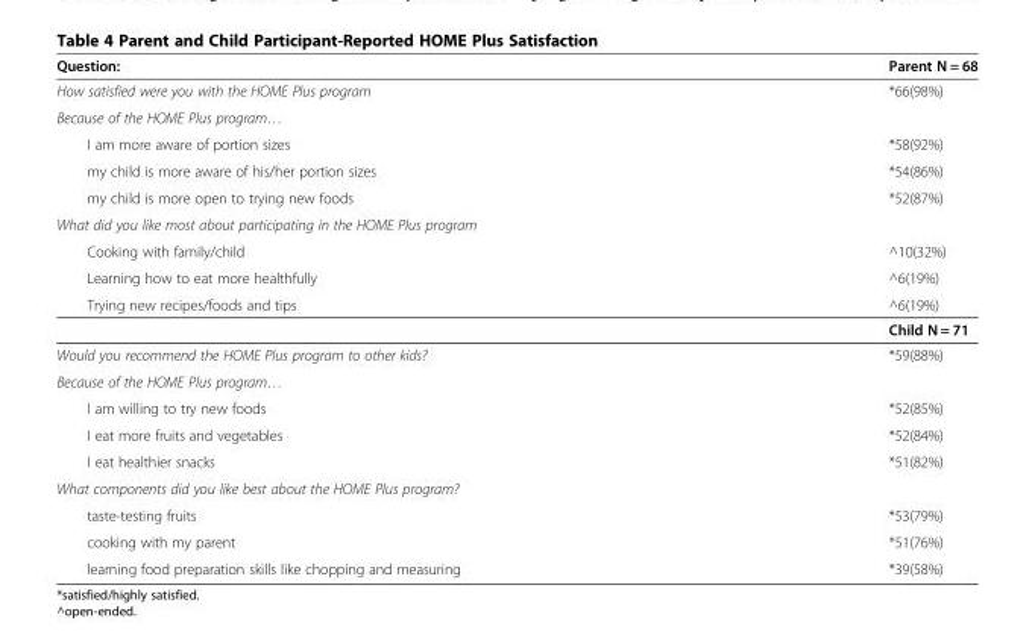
<table><thead><tr><td>Question:</td><td>Parent N = 68</td></tr></thead><tbody><tr><td>How satisfied were you with the HOME Plus program</td><td>*66(98%)</td></tr><tr><td colspan="2">Because of the HOME Plus program…</td></tr><tr><td>I am more aware of portion sizes</td><td>*58(92%)</td></tr><tr><td>my child is more aware of his/her portion sizes</td><td>*54(86%)</td></tr><tr><td>my child is more open to trying new foods</td><td>*52(87%)</td></tr><tr><td colspan="2">What did you like most about participating in the HOME Plus program</td></tr><tr><td>Cooking with family/child</td><td>^10(32%)</td></tr><tr><td>Learning how to eat more healthfully</td><td>^6(19%)</td></tr><tr><td rowspan="2">Trying new recipes/foods and tips</td><td>^6(19%)</td></tr><tr><td>Child N = 71</td></tr><tr><td>Would you recommend the HOME Plus program to other kids?</td><td>*59(88%)</td></tr><tr><td colspan="2">Because of the HOME Plus program…</td></tr><tr><td>I am willing to try new foods</td><td>*52(85%)</td></tr><tr><td>I eat more fruits and vegetables</td><td>*52(84%)</td></tr><tr><td>I eat healthier snacks</td><td>*51(82%)</td></tr><tr><td colspan="2">What components did you like best about the HOME Plus program?</td></tr><tr><td>taste-testing fruits</td><td>*53(79%)</td></tr><tr><td>cooking with my parent</td><td>*51(76%)</td></tr><tr><td>learning food preparation skills like chopping and measuring</td><td>*39(58%)</td></tr></tbody></table>